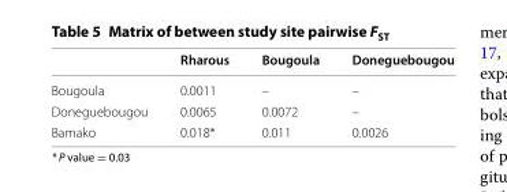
<table><thead><tr><td></td><td>Rharous</td><td>Bougoula</td><td>Doneguebougou</td></tr></thead><tbody><tr><td>Bougoula</td><td>0.0011</td><td>–</td><td>–</td></tr><tr><td>Doneguebougou</td><td>0.0065</td><td>0.0072</td><td>–</td></tr><tr><td>Bamako</td><td>0.018*</td><td>0.011</td><td>0.0026</td></tr></tbody></table>